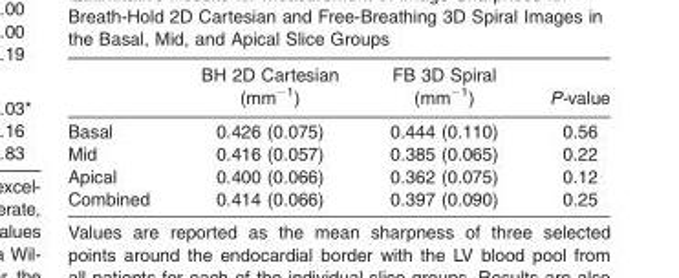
<table><thead><tr><td></td><td>BH 2D Cartesian (mm<sup>−1</sup>)</td><td>FB 3D Spiral (mm<sup>−1</sup>)</td><td>P-value</td></tr></thead><tbody><tr><td>Basal</td><td>0.426 (0.075)</td><td>0.444 (0.110)</td><td>0.56</td></tr><tr><td>Mid</td><td>0.416 (0.057)</td><td>0.385 (0.065)</td><td>0.22</td></tr><tr><td>Apical</td><td>0.400 (0.066)</td><td>0.362 (0.075)</td><td>0.12</td></tr><tr><td>Combined</td><td>0.414 (0.066)</td><td>0.397 (0.090)</td><td>0.25</td></tr></tbody></table>